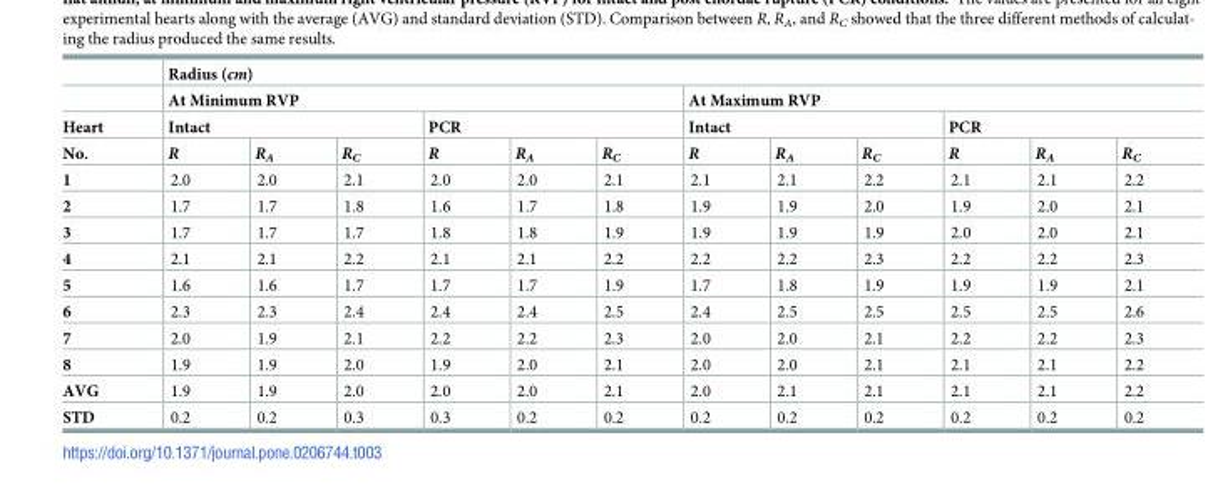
<table><thead><tr><td rowspan="4">Heart No.</td><td colspan="12">Radius (cm)</td></tr><tr><td colspan="6">At Minimum RVP</td><td colspan="6">At Maximum RVP</td></tr><tr><td colspan="3">Intact</td><td colspan="3">PCR</td><td colspan="3">Intact</td><td colspan="3">PCR</td></tr><tr><td>R</td><td>R<sub>A</sub></td><td>R<sub>C</sub></td><td>R</td><td>R<sub>A</sub></td><td>R<sub>C</sub></td><td>R</td><td>R<sub>A</sub></td><td>R<sub>C</sub></td><td>R</td><td>R<sub>A</sub></td><td>R<sub>C</sub></td></tr></thead><tbody><tr><td>1</td><td>2.0</td><td>2.0</td><td>2.1</td><td>2.0</td><td>2.0</td><td>2.1</td><td>2.1</td><td>2.1</td><td>2.2</td><td>2.1</td><td>2.1</td><td>2.2</td></tr><tr><td>2</td><td>1.7</td><td>1.7</td><td>1.8</td><td>1.6</td><td>1.7</td><td>1.8</td><td>1.9</td><td>1.9</td><td>2.0</td><td>1.9</td><td>2.0</td><td>2.1</td></tr><tr><td>3</td><td>1.7</td><td>1.7</td><td>1.7</td><td>1.8</td><td>1.8</td><td>1.9</td><td>1.9</td><td>1.9</td><td>1.9</td><td>2.0</td><td>2.0</td><td>2.1</td></tr><tr><td>4</td><td>2.1</td><td>2.1</td><td>2.2</td><td>2.1</td><td>2.1</td><td>2.2</td><td>2.2</td><td>2.2</td><td>2.3</td><td>2.2</td><td>2.2</td><td>2.3</td></tr><tr><td>5</td><td>1.6</td><td>1.6</td><td>1.7</td><td>1.7</td><td>1.7</td><td>1.9</td><td>1.7</td><td>1.8</td><td>1.9</td><td>1.9</td><td>1.9</td><td>2.1</td></tr><tr><td>6</td><td>2.3</td><td>2.3</td><td>2.4</td><td>2.4</td><td>2.4</td><td>2.5</td><td>2.4</td><td>2.5</td><td>2.5</td><td>2.5</td><td>2.5</td><td>2.6</td></tr><tr><td>7</td><td>2.0</td><td>1.9</td><td>2.1</td><td>2.2</td><td>2.2</td><td>2.3</td><td>2.0</td><td>2.0</td><td>2.1</td><td>2.2</td><td>2.2</td><td>2.3</td></tr><tr><td>8</td><td>1.9</td><td>1.9</td><td>2.0</td><td>1.9</td><td>2.0</td><td>2.1</td><td>2.0</td><td>2.0</td><td>2.1</td><td>2.1</td><td>2.1</td><td>2.2</td></tr><tr><td>AVG</td><td>1.9</td><td>1.9</td><td>2.0</td><td>2.0</td><td>2.0</td><td>2.1</td><td>2.0</td><td>2.1</td><td>2.1</td><td>2.1</td><td>2.1</td><td>2.2</td></tr><tr><td>STD</td><td>0.2</td><td>0.2</td><td>0.3</td><td>0.3</td><td>0.2</td><td>0.2</td><td>0.2</td><td>0.2</td><td>0.2</td><td>0.2</td><td>0.2</td><td>0.2</td></tr></tbody></table>